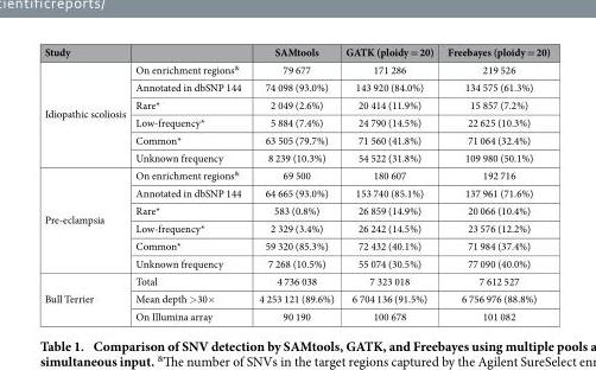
<table><thead><tr><td>Study</td><td></td><td>SAMtools</td><td>GATK (ploidy = 20)</td><td>Freebayes (ploidy = 20)</td></tr></thead><tbody><tr><td rowspan="6">Idiopathic scoliosis</td><td>On enrichment regions&amp;</td><td>79 677</td><td>171 286</td><td>219 526</td></tr><tr><td>Annotated in dbSNP 144</td><td>74 098 (93.0%)</td><td>143 920 (84.0%)</td><td>134 575 (61.3%)</td></tr><tr><td>Rare*</td><td>2 049 (2.6%)</td><td>20 414 (11.9%)</td><td>15 857 (7.2%)</td></tr><tr><td>Low-frequency*</td><td>5 884 (7.4%)</td><td>24 790 (14.5%)</td><td>22 625 (10.3%)</td></tr><tr><td>Common*</td><td>63 505 (79.7%)</td><td>71 560 (41.8%)</td><td>71 064 (32.4%)</td></tr><tr><td>Unknown frequency</td><td>8 239 (10.3%)</td><td>54 522 (31.8%)</td><td>109 980 (50.1%)</td></tr><tr><td rowspan="6">Pre-eclampsia</td><td>On enrichment regions&amp;</td><td>69 500</td><td>180 607</td><td>192 716</td></tr><tr><td>Annotated in dbSNP 144</td><td>64 665 (93.0%)</td><td>153 740 (85.1%)</td><td>137 961 (71.6%)</td></tr><tr><td>Rare*</td><td>583 (0.8%)</td><td>26 859 (14.9%)</td><td>20 066 (10.4%)</td></tr><tr><td>Low-frequency*</td><td>2 329 (3.4%)</td><td>26 242 (14.5%)</td><td>23 576 (12.2%)</td></tr><tr><td>Common*</td><td>59 320 (85.3%)</td><td>72 432 (40.1%)</td><td>71 984 (37.4%)</td></tr><tr><td>Unknown frequency</td><td>7 268 (10.5%)</td><td>55 074 (30.5%)</td><td>77 090 (40.0%)</td></tr><tr><td rowspan="3">Bull Terrier</td><td>Total</td><td>4 736 038</td><td>7 323 018</td><td>7 612 527</td></tr><tr><td>Mean depth &gt; 30×</td><td>4 253 121 (89.6%)</td><td>6 704 136 (91.5%)</td><td>6 756 976 (88.8%)</td></tr><tr><td>On Illumina array</td><td>90 190</td><td>100 678</td><td>101 082</td></tr></tbody></table>